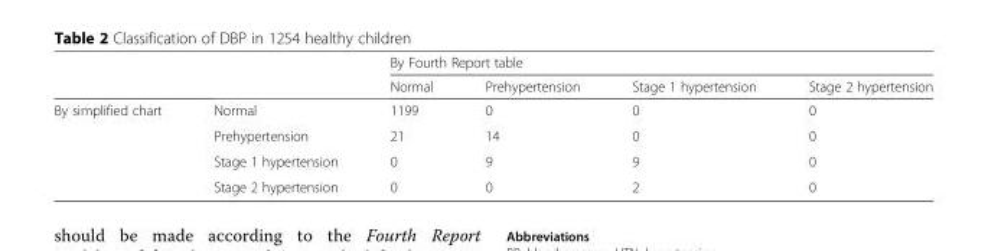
<table><thead><tr><td rowspan="2"></td><td rowspan="2"></td><td colspan="4">By Fourth Report table</td></tr><tr><td>Normal</td><td>Prehypertension</td><td>Stage 1 hypertension</td><td>Stage 2 hypertension</td></tr></thead><tbody><tr><td rowspan="4">By simplified chart</td><td>Normal</td><td>1199</td><td>0</td><td>0</td><td>0</td></tr><tr><td>Prehypertension</td><td>21</td><td>14</td><td>0</td><td>0</td></tr><tr><td>Stage 1 hypertension</td><td>0</td><td>9</td><td>9</td><td>0</td></tr><tr><td>Stage 2 hypertension</td><td>0</td><td>0</td><td>2</td><td>0</td></tr></tbody></table>